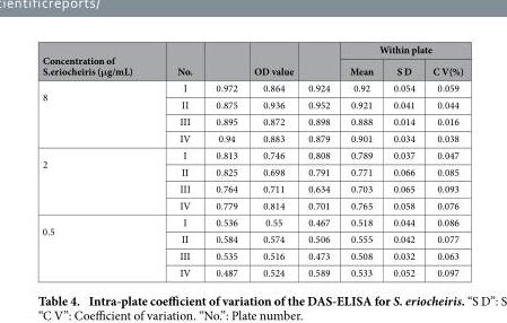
<table><thead><tr><td rowspan="2">Concentration of S.eriocheiris (μg/mL)</td><td rowspan="2">No.</td><td rowspan="2"></td><td rowspan="2">OD value</td><td rowspan="2"></td><td colspan="3">Within plate</td></tr><tr><td>Mean</td><td>S D</td><td>C V(%)</td></tr></thead><tbody><tr><td rowspan="4">8</td><td>I</td><td>0.972</td><td>0.864</td><td>0.924</td><td>0.92</td><td>0.054</td><td>0.059</td></tr><tr><td>II</td><td>0.875</td><td>0.936</td><td>0.952</td><td>0.921</td><td>0.041</td><td>0.044</td></tr><tr><td>III</td><td>0.895</td><td>0.872</td><td>0.898</td><td>0.888</td><td>0.014</td><td>0.016</td></tr><tr><td>IV</td><td>0.94</td><td>0.883</td><td>0.879</td><td>0.901</td><td>0.034</td><td>0.038</td></tr><tr><td rowspan="4">2</td><td>I</td><td>0.813</td><td>0.746</td><td>0.808</td><td>0.789</td><td>0.037</td><td>0.047</td></tr><tr><td>II</td><td>0.825</td><td>0.698</td><td>0.791</td><td>0.771</td><td>0.066</td><td>0.085</td></tr><tr><td>III</td><td>0.764</td><td>0.711</td><td>0.634</td><td>0.703</td><td>0.065</td><td>0.093</td></tr><tr><td>IV</td><td>0.779</td><td>0.814</td><td>0.701</td><td>0.765</td><td>0.058</td><td>0.076</td></tr><tr><td rowspan="4">0.5</td><td>I</td><td>0.536</td><td>0.55</td><td>0.467</td><td>0.518</td><td>0.044</td><td>0.086</td></tr><tr><td>II</td><td>0.584</td><td>0.574</td><td>0.506</td><td>0.555</td><td>0.042</td><td>0.077</td></tr><tr><td>III</td><td>0.535</td><td>0.516</td><td>0.473</td><td>0.508</td><td>0.032</td><td>0.063</td></tr><tr><td>IV</td><td>0.487</td><td>0.524</td><td>0.589</td><td>0.533</td><td>0.052</td><td>0.097</td></tr></tbody></table>